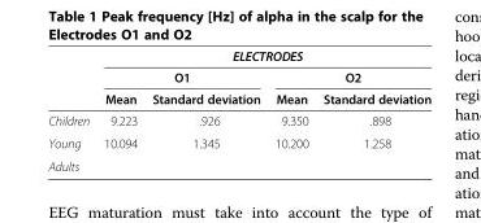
<table><thead><tr><td rowspan="3"></td><td colspan="4">ELECTRODES</td></tr><tr><td colspan="2">O1</td><td colspan="2">O2</td></tr><tr><td>Mean</td><td>Standard deviation</td><td>Mean</td><td>Standard deviation</td></tr></thead><tbody><tr><td>Children</td><td>9.223</td><td>.926</td><td>9.350</td><td>.898</td></tr><tr><td>Young</td><td rowspan="2">10.094</td><td rowspan="2">1.345</td><td rowspan="2">10.200</td><td rowspan="2">1.258</td></tr><tr><td>Adults</td></tr></tbody></table>